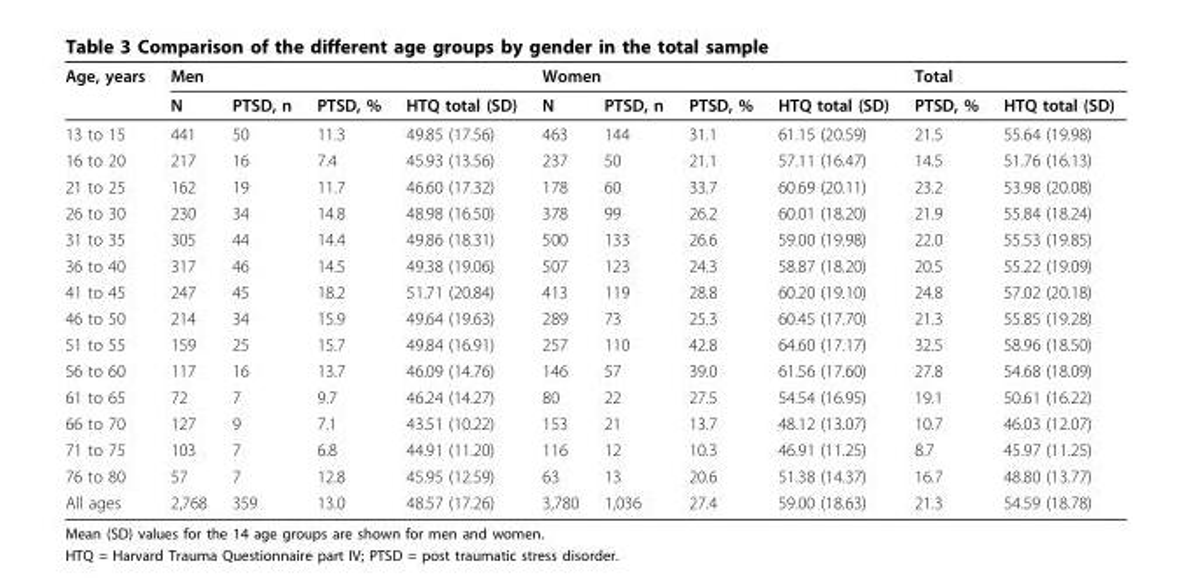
<table><thead><tr><td rowspan="2">Age, years</td><td colspan="4">Men</td><td colspan="4">Women</td><td colspan="2">Total</td></tr><tr><td>N</td><td>PTSD, n</td><td>PTSD, %</td><td>HTQ total (SD)</td><td>N</td><td>PTSD, n</td><td>PTSD, %</td><td>HTQ total (SD)</td><td>PTSD, %</td><td>HTQ total (SD)</td></tr></thead><tbody><tr><td>13 to 15</td><td>441</td><td>50</td><td>11.3</td><td>49.85 (17.56)</td><td>463</td><td>144</td><td>31.1</td><td>61.15 (20.59)</td><td>21.5</td><td>55.64 (19.98)</td></tr><tr><td>16 to 20</td><td>217</td><td>16</td><td>7.4</td><td>45.93 (13.56)</td><td>237</td><td>50</td><td>21.1</td><td>57.11 (16.47)</td><td>14.5</td><td>51.76 (16.13)</td></tr><tr><td>21 to 25</td><td>162</td><td>19</td><td>11.7</td><td>46.60 (17.32)</td><td>178</td><td>60</td><td>33.7</td><td>60.69 (20.11)</td><td>23.2</td><td>53.98 (20.08)</td></tr><tr><td>26 to 30</td><td>230</td><td>34</td><td>14.8</td><td>48.98 (16.50)</td><td>378</td><td>99</td><td>26.2</td><td>60.01 (18.20)</td><td>21.9</td><td>55.84 (18.24)</td></tr><tr><td>31 to 35</td><td>305</td><td>44</td><td>14.4</td><td>49.86 (18.31)</td><td>500</td><td>133</td><td>26.6</td><td>59.00 (19.98)</td><td>22.0</td><td>55.53 (19.85)</td></tr><tr><td>36 to 40</td><td>317</td><td>46</td><td>14.5</td><td>49.38 (19.06)</td><td>507</td><td>123</td><td>24.3</td><td>58.87 (18.20)</td><td>20.5</td><td>55.22 (19.09)</td></tr><tr><td>41 to 45</td><td>247</td><td>45</td><td>18.2</td><td>51.71 (20.84)</td><td>413</td><td>119</td><td>28.8</td><td>60.20 (19.10)</td><td>24.8</td><td>57.02 (20.18)</td></tr><tr><td>46 to 50</td><td>214</td><td>34</td><td>15.9</td><td>49.64 (19.63)</td><td>289</td><td>73</td><td>25.3</td><td>60.45 (17.70)</td><td>21.3</td><td>55.85 (19.28)</td></tr><tr><td>51 to 55</td><td>159</td><td>25</td><td>15.7</td><td>49.84 (16.91)</td><td>257</td><td>110</td><td>42.8</td><td>64.60 (17.17)</td><td>32.5</td><td>58.96 (18.50)</td></tr><tr><td>56 to 60</td><td>117</td><td>16</td><td>13.7</td><td>46.09 (14.76)</td><td>146</td><td>57</td><td>39.0</td><td>61.56 (17.60)</td><td>27.8</td><td>54.68 (18.09)</td></tr><tr><td>61 to 65</td><td>72</td><td>7</td><td>9.7</td><td>46.24 (14.27)</td><td>80</td><td>22</td><td>27.5</td><td>54.54 (16.95)</td><td>19.1</td><td>50.61 (16.22)</td></tr><tr><td>66 to 70</td><td>127</td><td>9</td><td>7.1</td><td>43.51 (10.22)</td><td>153</td><td>21</td><td>13.7</td><td>48.12 (13.07)</td><td>10.7</td><td>46.03 (12.07)</td></tr><tr><td>71 to 75</td><td>103</td><td>7</td><td>6.8</td><td>44.91 (11.20)</td><td>116</td><td>12</td><td>10.3</td><td>46.91 (11.25)</td><td>8.7</td><td>45.97 (11.25)</td></tr><tr><td>76 to 80</td><td>57</td><td>7</td><td>12.8</td><td>45.95 (12.59)</td><td>63</td><td>13</td><td>20.6</td><td>51.38 (14.37)</td><td>16.7</td><td>48.80 (13.77)</td></tr><tr><td>All ages</td><td>2,768</td><td>359</td><td>13.0</td><td>48.57 (17.26)</td><td>3,780</td><td>1,036</td><td>27.4</td><td>59.00 (18.63)</td><td>21.3</td><td>54.59 (18.78)</td></tr></tbody></table>